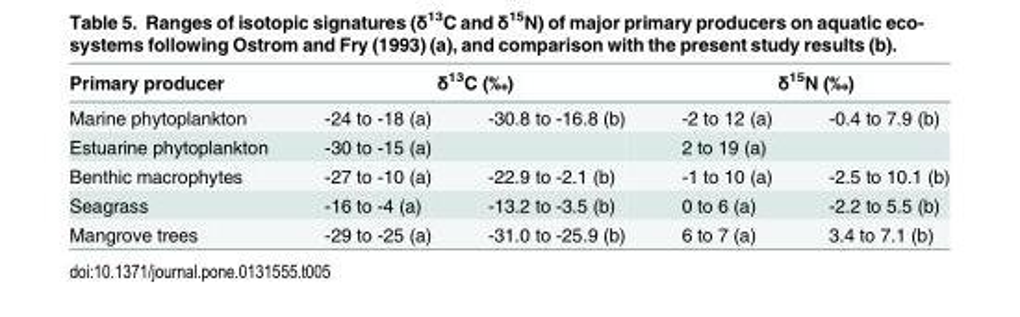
<table><thead><tr><td rowspan="2">Primary producer Marine phytoplankton</td><td colspan="2">δ<sup>13</sup>C (‰)</td><td colspan="2">δ<sup>15</sup>N (‰)</td></tr><tr><td>-24 to -18 (a)</td><td>-30.8 to -16.8 (b)</td><td>-2 to 12 (a)</td><td>-0.4 to 7.9 (b)</td></tr></thead><tbody><tr><td>Estuarine phytoplankton</td><td>-30 to -15 (a)</td><td></td><td>2 to 19 (a)</td><td></td></tr><tr><td>Benthic macrophytes</td><td>-27 to -10 (a)</td><td>-22.9 to -2.1 (b)</td><td>-1 to 10 (a)</td><td>-2.5 to 10.1 (b)</td></tr><tr><td>Seagrass</td><td>-16 to -4 (a)</td><td>-13.2 to -3.5 (b)</td><td>0 to 6 (a)</td><td>-2.2 to 5.5 (b)</td></tr><tr><td>Mangrove trees</td><td>-29 to -25 (a)</td><td>-31.0 to -25.9 (b)</td><td>6 to 7 (a)</td><td>3.4 to 7.1 (b)</td></tr></tbody></table>